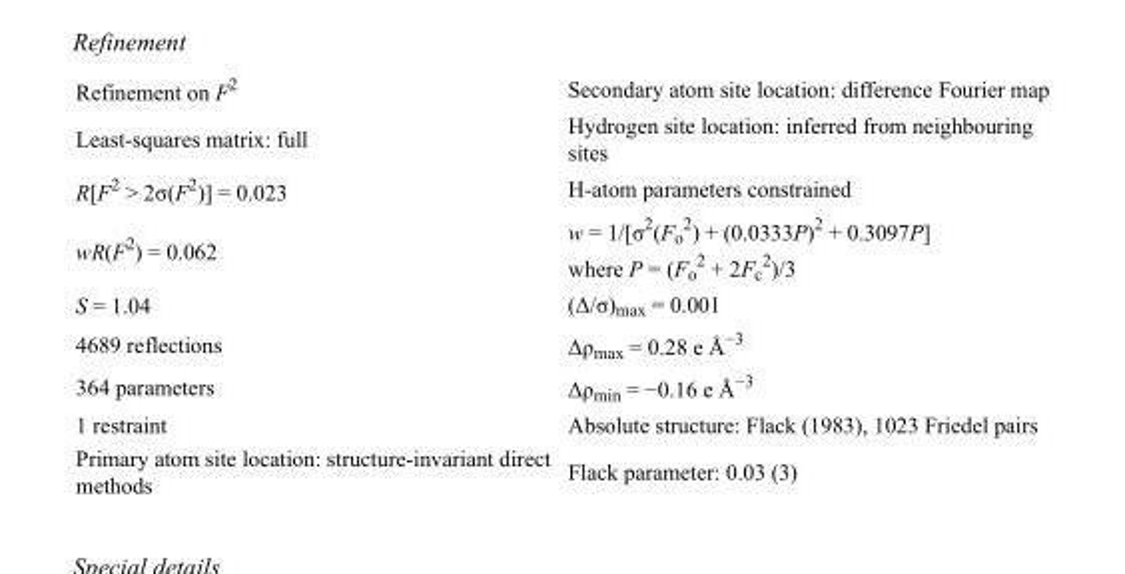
<table><tbody><tr><td>Refinement on F<sup>2</sup></td><td>Secondary atom site location: difference Fourier map</td></tr><tr><td>Least-squares matrix: full</td><td>Hydrogen site location: inferred from neighbouring sites</td></tr><tr><td>R[F<sup>2</sup> &gt; 2σ(F<sup>2</sup>)] = 0.023</td><td>H-atom parameters constrained</td></tr><tr><td>wR(F<sup>2</sup>) = 0.062</td><td>w = 1/[σ<sup>2</sup>(F<sub>o</sub> <sup>2</sup>) + (0.0333P)<sup>2</sup> + 0.3097P] where P = (F<sub>o</sub> <sup>2</sup> + 2F<sub>c</sub> <sup>2</sup>)/3</td></tr><tr><td>S = 1.04</td><td>(Δ/σ)<sub>max</sub> = 0.001</td></tr><tr><td>4689 reflections</td><td>Δρ<sub>max</sub> = 0.28 e Å<sup>−3</sup></td></tr><tr><td>364 parameters</td><td>Δρ<sub>min</sub> = −0.16 e Å<sup>−3</sup></td></tr><tr><td>1 restraint</td><td>Absolute structure: Flack (1983), 1023 Friedel pairs</td></tr><tr><td>Primary atom site location: structure-invariant direct methods</td><td>Flack parameter: 0.03 (3)</td></tr></tbody></table>